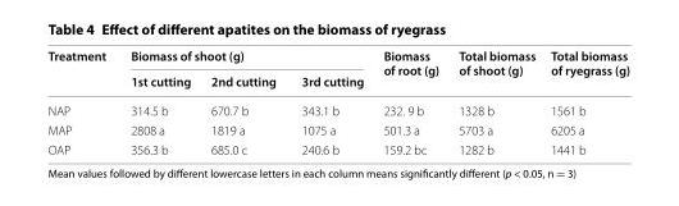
<table><thead><tr><td rowspan="2">Treatment</td><td colspan="3">Biomass of shoot (g)</td><td rowspan="2">Biomass of root (g)</td><td rowspan="2">Total biomass of shoot (g)</td><td rowspan="2">Total biomass of ryegrass (g)</td></tr><tr><td>1st cutting</td><td>2nd cutting</td><td>3rd cutting</td></tr></thead><tbody><tr><td>NAP</td><td>314.5 b</td><td>670.7 b</td><td>343.1 b</td><td>232. 9 b</td><td>1328 b</td><td>1561 b</td></tr><tr><td>MAP</td><td>2808 a</td><td>1819 a</td><td>1075 a</td><td>501.3 a</td><td>5703 a</td><td>6205 a</td></tr><tr><td>OAP</td><td>356.3 b</td><td>685.0 c</td><td>240.6 b</td><td>159.2 bc</td><td>1282 b</td><td>1441 b</td></tr></tbody></table>